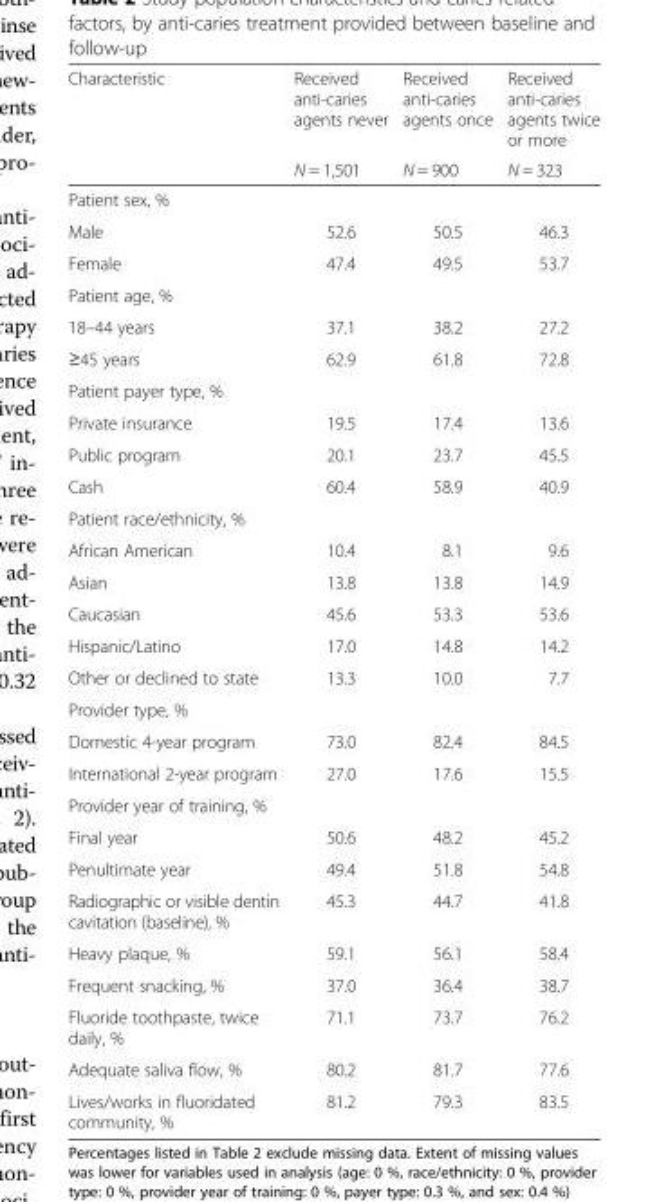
<table><thead><tr><td rowspan="2">Characteristic</td><td rowspan="2">Received anti-caries agents never N = 1,501</td><td rowspan="2">Received anti-caries agents once N = 900</td><td rowspan="2">Received anti-caries agents twice or more N = 323</td></tr><tr></tr></thead><tbody><tr><td colspan="4">Patient sex, %</td></tr><tr><td>Male</td><td>52.6</td><td>50.5</td><td>46.3</td></tr><tr><td>Female</td><td>47.4</td><td>49.5</td><td>53.7</td></tr><tr><td colspan="4">Patient age, %</td></tr><tr><td>18–44 years</td><td>37.1</td><td>38.2</td><td>27.2</td></tr><tr><td>≥45 years</td><td>62.9</td><td>61.8</td><td>72.8</td></tr><tr><td colspan="4">Patient payer type, %</td></tr><tr><td>Private insurance</td><td>19.5</td><td>17.4</td><td>13.6</td></tr><tr><td>Public program</td><td>20.1</td><td>23.7</td><td>45.5</td></tr><tr><td>Cash</td><td>60.4</td><td>58.9</td><td>40.9</td></tr><tr><td colspan="4">Patient race/ethnicity, %</td></tr><tr><td>African American</td><td>10.4</td><td>8.1</td><td>9.6</td></tr><tr><td>Asian</td><td>13.8</td><td>13.8</td><td>14.9</td></tr><tr><td>Caucasian</td><td>45.6</td><td>53.3</td><td>53.6</td></tr><tr><td>Hispanic/Latino</td><td>17.0</td><td>14.8</td><td>14.2</td></tr><tr><td>Other or declined to state</td><td>13.3</td><td>10.0</td><td>7.7</td></tr><tr><td colspan="4">Provider type, %</td></tr><tr><td>Domestic 4-year program</td><td>73.0</td><td>82.4</td><td>84.5</td></tr><tr><td>International 2-year program</td><td>27.0</td><td>17.6</td><td>15.5</td></tr><tr><td colspan="4">Provider year of training, %</td></tr><tr><td>Final year</td><td>50.6</td><td>48.2</td><td>45.2</td></tr><tr><td>Penultimate year</td><td>49.4</td><td>51.8</td><td>54.8</td></tr><tr><td>Radiographic or visible dentin cavitation (baseline), %</td><td>45.3</td><td>44.7</td><td>41.8</td></tr><tr><td>Heavy plaque, %</td><td>59.1</td><td>56.1</td><td>58.4</td></tr><tr><td>Frequent snacking, %</td><td>37.0</td><td>36.4</td><td>38.7</td></tr><tr><td>Fluoride toothpaste, twice daily, %</td><td>71.1</td><td>73.7</td><td>76.2</td></tr><tr><td>Adequate saliva flow, %</td><td>80.2</td><td>81.7</td><td>77.6</td></tr><tr><td>Lives/works in fluoridated community, %</td><td>81.2</td><td>79.3</td><td>83.5</td></tr></tbody></table>